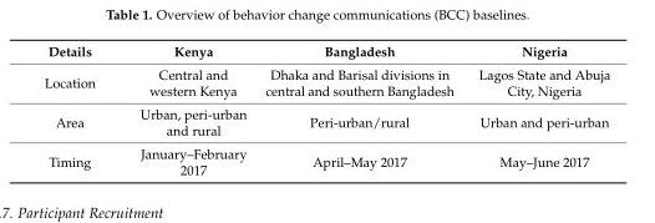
<table><thead><tr><td>Details</td><td>Kenya</td><td>Bangladesh</td><td>Nigeria</td></tr></thead><tbody><tr><td>Location</td><td>Central and western Kenya</td><td>Dhaka and Barisal divisions in central and southern Bangladesh</td><td>Lagos State and Abuja City, Nigeria</td></tr><tr><td>Area</td><td>Urban, peri-urban and rural</td><td>Peri-urban/rural</td><td>Urban and peri-urban</td></tr><tr><td>Timing</td><td>January–February 2017</td><td>April–May 2017</td><td>May–June 2017</td></tr></tbody></table>